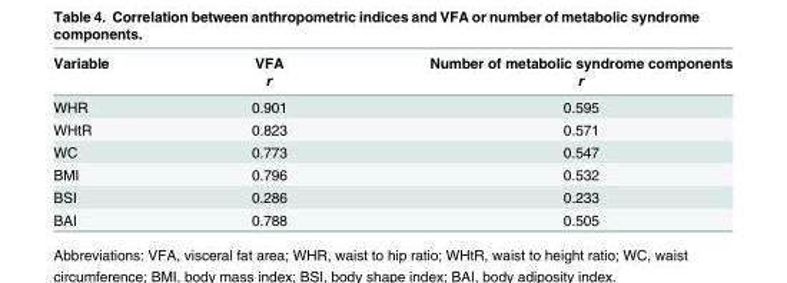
<table><thead><tr><td rowspan="2">Variable</td><td rowspan="2">VFA r</td><td rowspan="2">Number of metabolic syndrome components r</td></tr><tr></tr></thead><tbody><tr><td>WHR</td><td>0.901</td><td>0.595</td></tr><tr><td>WHtR</td><td>0.823</td><td>0.571</td></tr><tr><td>WC</td><td>0.773</td><td>0.547</td></tr><tr><td>BMI</td><td>0.796</td><td>0.532</td></tr><tr><td>BSI</td><td>0.286</td><td>0.233</td></tr><tr><td>BAI</td><td>0.788</td><td>0.505</td></tr></tbody></table>